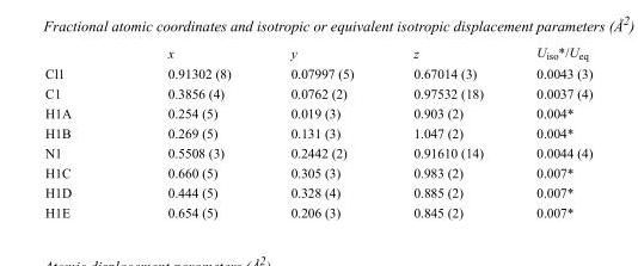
<table><thead><tr><td></td><td>x</td><td>y</td><td>z</td><td>U<sub>iso</sub>*/U<sub>eq</sub></td></tr></thead><tbody><tr><td>Cl1</td><td>0.91302 (8)</td><td>0.07997 (5)</td><td>0.67014 (3)</td><td>0.0043 (3)</td></tr><tr><td>C1</td><td>0.3856 (4)</td><td>0.0762 (2)</td><td>0.97532 (18)</td><td>0.0037 (4)</td></tr><tr><td>H1A</td><td>0.254 (5)</td><td>0.019 (3)</td><td>0.903 (2)</td><td>0.004*</td></tr><tr><td>H1B</td><td>0.269 (5)</td><td>0.131 (3)</td><td>1.047 (2)</td><td>0.004*</td></tr><tr><td>N1</td><td>0.5508 (3)</td><td>0.2442 (2)</td><td>0.91610 (14)</td><td>0.0044 (4)</td></tr><tr><td>H1C</td><td>0.660 (5)</td><td>0.305 (3)</td><td>0.983 (2)</td><td>0.007*</td></tr><tr><td>H1D</td><td>0.444 (5)</td><td>0.328 (4)</td><td>0.885 (2)</td><td>0.007*</td></tr><tr><td>H1E</td><td>0.654 (5)</td><td>0.206 (3)</td><td>0.845 (2)</td><td>0.007*</td></tr></tbody></table>